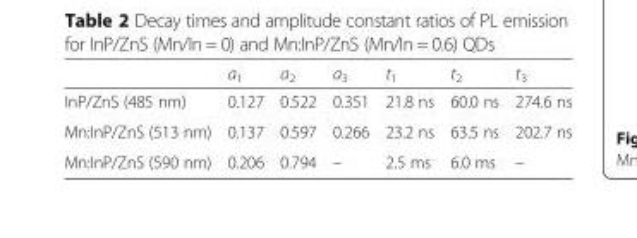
<table><thead><tr><td></td><td>a<sub>1</sub></td><td>a<sub>2</sub></td><td>a<sub>3</sub></td><td>t<sub>1</sub></td><td>t<sub>2</sub></td><td>t<sub>3</sub></td></tr></thead><tbody><tr><td>InP/ZnS (485 nm)</td><td>0.127</td><td>0.522</td><td>0.351</td><td>21.8 ns</td><td>60.0 ns</td><td>274.6 ns</td></tr><tr><td>Mn:InP/ZnS (513 nm)</td><td>0.137</td><td>0.597</td><td>0.266</td><td>23.2 ns</td><td>63.5 ns</td><td>202.7 ns</td></tr><tr><td>Mn:InP/ZnS (590 nm)</td><td>0.206</td><td>0.794</td><td>–</td><td>2.5 ms</td><td>6.0 ms</td><td>–</td></tr></tbody></table>